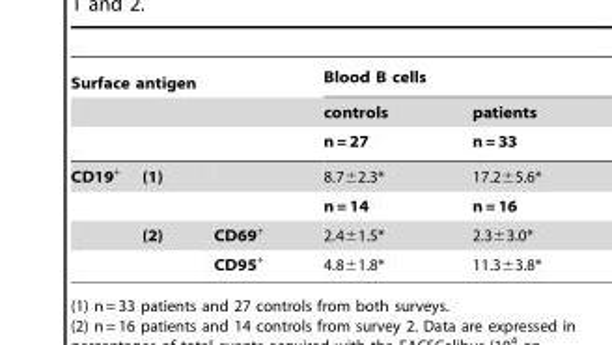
<table><thead><tr><td colspan="3">Surface antigen</td><td colspan="2">Blood B cells</td></tr><tr><td rowspan="2"></td><td rowspan="2"></td><td rowspan="2"></td><td rowspan="2">controls n = 27</td><td rowspan="2">patients n = 33</td></tr><tr></tr></thead><tbody><tr><td rowspan="4">CD19<sup>+</sup></td><td>(1)</td><td></td><td>8.7±2.3*</td><td>17.2±5.6*</td></tr><tr><td colspan="2"></td><td>n = 14</td><td>n = 16</td></tr><tr><td>(2)</td><td>CD69<sup>+</sup></td><td>2.4±1.5*</td><td>2.3±3.0*</td></tr><tr><td></td><td>CD95<sup>+</sup></td><td>4.8±1.8*</td><td>11.3±3.8*</td></tr></tbody></table>